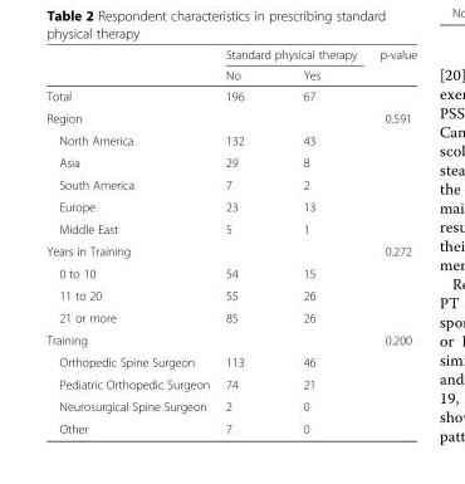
<table><thead><tr><td rowspan="2"></td><td colspan="2">Standard physical therapy</td><td rowspan="2">p-value</td></tr><tr><td>No</td><td>Yes</td></tr></thead><tbody><tr><td>Total</td><td>196</td><td>67</td><td></td></tr><tr><td>Region</td><td></td><td></td><td>0.591</td></tr><tr><td>North America</td><td>132</td><td>43</td><td></td></tr><tr><td>Asia</td><td>29</td><td>8</td><td></td></tr><tr><td>South America</td><td>7</td><td>2</td><td></td></tr><tr><td>Europe</td><td>23</td><td>13</td><td></td></tr><tr><td>Middle East</td><td>5</td><td>1</td><td></td></tr><tr><td>Years in Training</td><td></td><td></td><td>0.272</td></tr><tr><td>0 to 10</td><td>54</td><td>15</td><td></td></tr><tr><td>11 to 20</td><td>55</td><td>26</td><td></td></tr><tr><td>21 or more</td><td>85</td><td>26</td><td></td></tr><tr><td>Training</td><td></td><td></td><td>0.200</td></tr><tr><td>Orthopedic Spine Surgeon</td><td>113</td><td>46</td><td></td></tr><tr><td>Pediatric Orthopedic Surgeon</td><td>74</td><td>21</td><td></td></tr><tr><td>Neurosurgical Spine Surgeon</td><td>2</td><td>0</td><td></td></tr><tr><td>Other</td><td>7</td><td>0</td><td></td></tr></tbody></table>